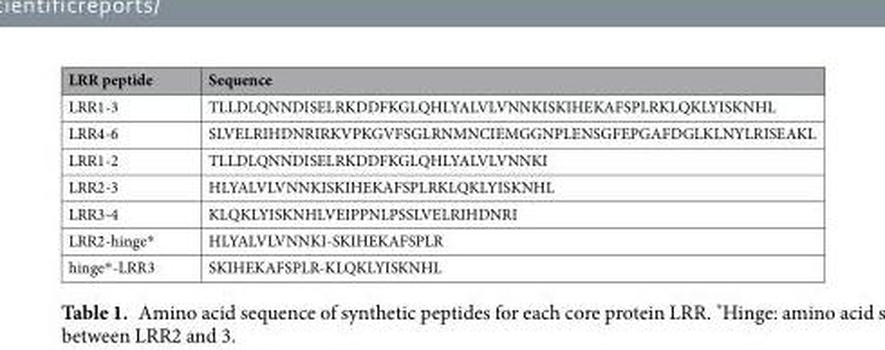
<table><thead><tr><td>LRR peptide</td><td>Sequence</td></tr></thead><tbody><tr><td>LRR1-3</td><td>TLLDLQNNDISELRKDDFKGLQHLYALVLVNNKISKIHEKAFSPLRKLQKLYISKNHL</td></tr><tr><td>LRR4-6</td><td>SLVELRIHDNRIRKVPKGVFSGLRNMNCIEMGGNPLENSGFEPGAFDGLKLNYLRISEAKL</td></tr><tr><td>LRR1-2</td><td>TLLDLQNNDISELRKDDFKGLQHLYALVLVNNKI</td></tr><tr><td>LRR2-3</td><td>HLYALVLVNNKISKIHEKAFSPLRKLQKLYISKNHL</td></tr><tr><td>LRR3-4</td><td>KLQKLYISKNHLVEIPPNLPSSLVELRIHDNRI</td></tr><tr><td>LRR2-hinge*</td><td>HLYALVLVNNKI-SKIHEKAFSPLR</td></tr><tr><td>hinge*-LRR3</td><td>SKIHEKAFSPLR-KLQKLYISKNHL</td></tr></tbody></table>